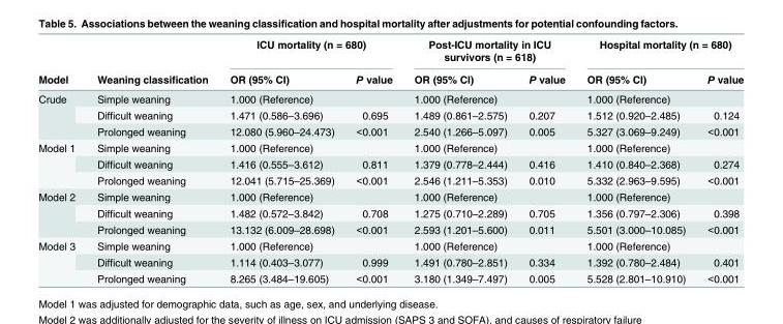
<table><thead><tr><td rowspan="2">Model</td><td rowspan="2">Weaning classification</td><td colspan="2">ICU mortality (n = 680)</td><td colspan="2">Post-ICU mortality in ICU survivors (n = 618)</td><td colspan="2">Hospital mortality (n = 680)</td></tr><tr><td>OR (95% CI)</td><td>P value</td><td>OR (95% CI)</td><td>P value</td><td>OR (95% CI)</td><td>P value</td></tr></thead><tbody><tr><td rowspan="3">Crude</td><td>Simple weaning</td><td>1.000 (Reference)</td><td></td><td>1.000 (Reference)</td><td></td><td>1.000 (Reference)</td><td></td></tr><tr><td>Difficult weaning</td><td>1.471 (0.586–3.696)</td><td>0.695</td><td>1.489 (0.861–2.575)</td><td>0.207</td><td>1.512 (0.920–2.485)</td><td>0.124</td></tr><tr><td>Prolonged weaning</td><td>12.080 (5.960–24.473)</td><td>&lt;0.001</td><td>2.540 (1.266–5.097)</td><td>0.005</td><td>5.327 (3.069–9.249)</td><td>&lt;0.001</td></tr><tr><td rowspan="3">Model 1</td><td>Simple weaning</td><td>1.000 (Reference)</td><td></td><td>1.000 (Reference)</td><td></td><td>1.000 (Reference)</td><td></td></tr><tr><td>Difficult weaning</td><td>1.416 (0.555–3.612)</td><td>0.811</td><td>1.379 (0.778–2.444)</td><td>0.416</td><td>1.410 (0.840–2.368)</td><td>0.274</td></tr><tr><td>Prolonged weaning</td><td>12.041 (5.715–25.369)</td><td>&lt;0.001</td><td>2.546 (1.211–5.353)</td><td>0.010</td><td>5.332 (2.963–9.595)</td><td>&lt;0.001</td></tr><tr><td rowspan="3">Model 2</td><td>Simple weaning</td><td>1.000 (Reference)</td><td></td><td>1.000 (Reference)</td><td></td><td>1.000 (Reference)</td><td></td></tr><tr><td>Difficult weaning</td><td>1.482 (0.572–3.842)</td><td>0.708</td><td>1.275 (0.710–2.289)</td><td>0.705</td><td>1.356 (0.797–2.306)</td><td>0.398</td></tr><tr><td>Prolonged weaning</td><td>13.132 (6.009–28.698)</td><td>&lt;0.001</td><td>2.593 (1.201–5.600)</td><td>0.011</td><td>5.501 (3.000–10.085)</td><td>&lt;0.001</td></tr><tr><td rowspan="3">Model 3</td><td>Simple weaning</td><td>1.000 (Reference)</td><td></td><td>1.000 (Reference)</td><td></td><td>1.000 (Reference)</td><td></td></tr><tr><td>Difficult weaning</td><td>1.114 (0.403–3.077)</td><td>0.999</td><td>1.491 (0.780–2.851)</td><td>0.334</td><td>1.392 (0.780–2.484)</td><td>0.401</td></tr><tr><td>Prolonged weaning</td><td>8.265 (3.484–19.605)</td><td>&lt;0.001</td><td>3.180 (1.349–7.497)</td><td>0.005</td><td>5.528 (2.801–10.910)</td><td>&lt;0.001</td></tr></tbody></table>